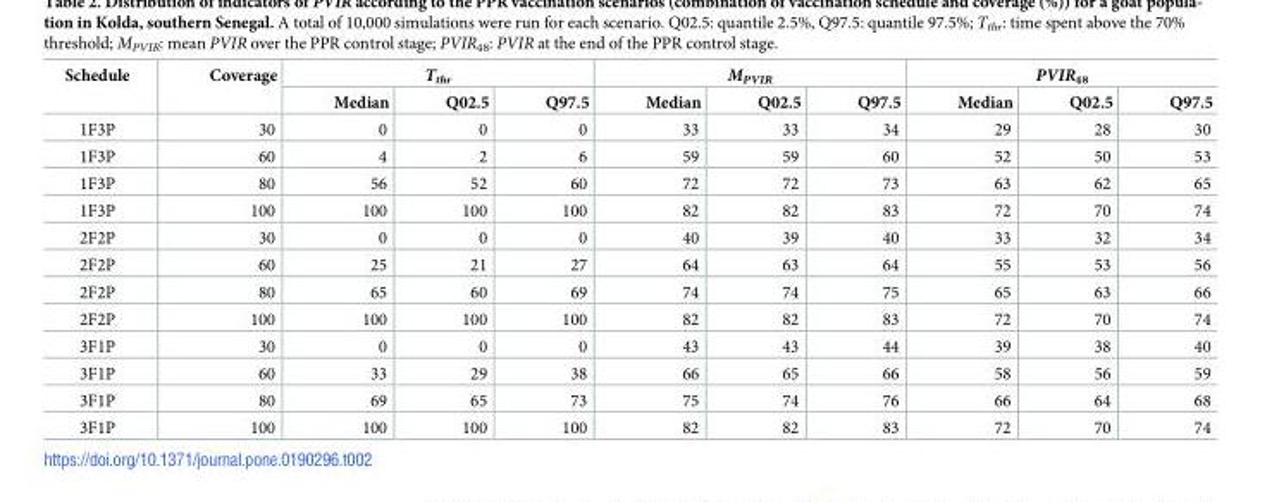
<table><thead><tr><td rowspan="2">Schedule</td><td rowspan="2">Coverage</td><td colspan="3">T<sub>thr</sub></td><td colspan="3">M<sub>PVIR</sub></td><td colspan="3">PVIR<sub>48</sub></td></tr><tr><td>Median</td><td>Q02.5</td><td>Q97.5</td><td>Median</td><td>Q02.5</td><td>Q97.5</td><td>Median</td><td>Q02.5</td><td>Q97.5</td></tr></thead><tbody><tr><td>1F3P</td><td>30</td><td>0</td><td>0</td><td>0</td><td>33</td><td>33</td><td>34</td><td>29</td><td>28</td><td>30</td></tr><tr><td>1F3P</td><td>60</td><td>4</td><td>2</td><td>6</td><td>59</td><td>59</td><td>60</td><td>52</td><td>50</td><td>53</td></tr><tr><td>1F3P</td><td>80</td><td>56</td><td>52</td><td>60</td><td>72</td><td>72</td><td>73</td><td>63</td><td>62</td><td>65</td></tr><tr><td>1F3P</td><td>100</td><td>100</td><td>100</td><td>100</td><td>82</td><td>82</td><td>83</td><td>72</td><td>70</td><td>74</td></tr><tr><td>2F2P</td><td>30</td><td>0</td><td>0</td><td>0</td><td>40</td><td>39</td><td>40</td><td>33</td><td>32</td><td>34</td></tr><tr><td>2F2P</td><td>60</td><td>25</td><td>21</td><td>27</td><td>64</td><td>63</td><td>64</td><td>55</td><td>53</td><td>56</td></tr><tr><td>2F2P</td><td>80</td><td>65</td><td>60</td><td>69</td><td>74</td><td>74</td><td>75</td><td>65</td><td>63</td><td>66</td></tr><tr><td>2F2P</td><td>100</td><td>100</td><td>100</td><td>100</td><td>82</td><td>82</td><td>83</td><td>72</td><td>70</td><td>74</td></tr><tr><td>3F1P</td><td>30</td><td>0</td><td>0</td><td>0</td><td>43</td><td>43</td><td>44</td><td>39</td><td>38</td><td>40</td></tr><tr><td>3F1P</td><td>60</td><td>33</td><td>29</td><td>38</td><td>66</td><td>65</td><td>66</td><td>58</td><td>56</td><td>59</td></tr><tr><td>3F1P</td><td>80</td><td>69</td><td>65</td><td>73</td><td>75</td><td>74</td><td>76</td><td>66</td><td>64</td><td>68</td></tr><tr><td>3F1P</td><td>100</td><td>100</td><td>100</td><td>100</td><td>82</td><td>82</td><td>83</td><td>72</td><td>70</td><td>74</td></tr></tbody></table>